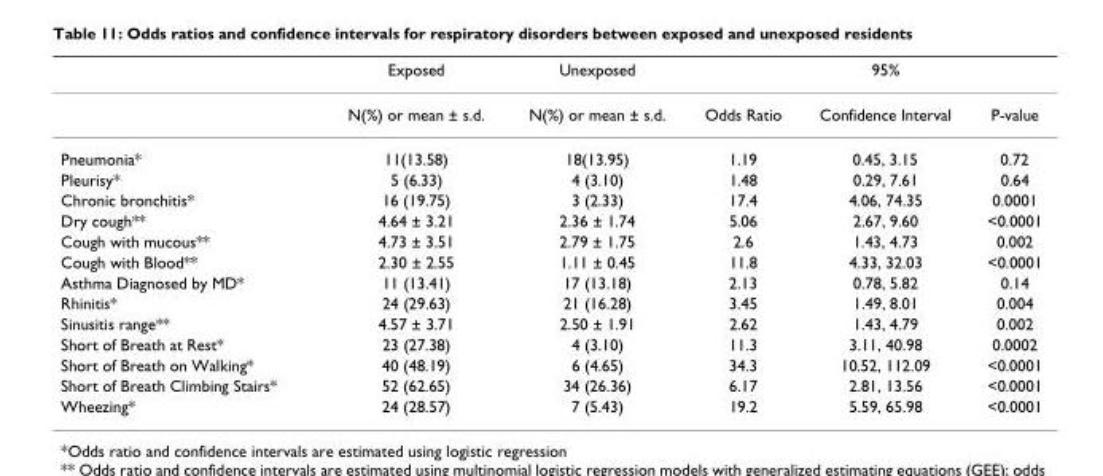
<table><thead><tr><td></td><td>Exposed</td><td>Unexposed</td><td></td><td>95%</td><td></td></tr></thead><tbody><tr><td></td><td>N(%) or mean ± s.d.</td><td>N(%) or mean ± s.d.</td><td>Odds Ratio</td><td>Confidence Interval</td><td>P-value</td></tr><tr><td>Pneumonia*</td><td>11(13.58)</td><td>18(13.95)</td><td>1.19</td><td>0.45, 3.15</td><td>0.72</td></tr><tr><td>Pleurisy*</td><td>5 (6.33)</td><td>4 (3.10)</td><td>1.48</td><td>0.29, 7.61</td><td>0.64</td></tr><tr><td>Chronic bronchitis*</td><td>16 (19.75)</td><td>3 (2.33)</td><td>17.4</td><td>4.06, 74.35</td><td>0.0001</td></tr><tr><td>Dry cough**</td><td>4.64 ± 3.21</td><td>2.36 ± 1.74</td><td>5.06</td><td>2.67, 9.60</td><td>&lt;0.0001</td></tr><tr><td>Cough with mucous**</td><td>4.73 ± 3.51</td><td>2.79 ± 1.75</td><td>2.6</td><td>1.43, 4.73</td><td>0.002</td></tr><tr><td>Cough with Blood**</td><td>2.30 ± 2.55</td><td>1.11 ± 0.45</td><td>11.8</td><td>4.33, 32.03</td><td>&lt;0.0001</td></tr><tr><td>Asthma Diagnosed by MD*</td><td>11 (13.41)</td><td>17 (13.18)</td><td>2.13</td><td>0.78, 5.82</td><td>0.14</td></tr><tr><td>Rhinitis*</td><td>24 (29.63)</td><td>21 (16.28)</td><td>3.45</td><td>1.49, 8.01</td><td>0.004</td></tr><tr><td>Sinusitis range**</td><td>4.57 ± 3.71</td><td>2.50 ± 1.91</td><td>2.62</td><td>1.43, 4.79</td><td>0.002</td></tr><tr><td>Short of Breath at Rest*</td><td>23 (27.38)</td><td>4 (3.10)</td><td>11.3</td><td>3.11, 40.98</td><td>0.0002</td></tr><tr><td>Short of Breath on Walking*</td><td>40 (48.19)</td><td>6 (4.65)</td><td>34.3</td><td>10.52, 112.09</td><td>&lt;0.0001</td></tr><tr><td>Short of Breath Climbing Stairs*</td><td>52 (62.65)</td><td>34 (26.36)</td><td>6.17</td><td>2.81, 13.56</td><td>&lt;0.0001</td></tr><tr><td>Wheezing*</td><td>24 (28.57)</td><td>7 (5.43)</td><td>19.2</td><td>5.59, 65.98</td><td>&lt;0.0001</td></tr></tbody></table>